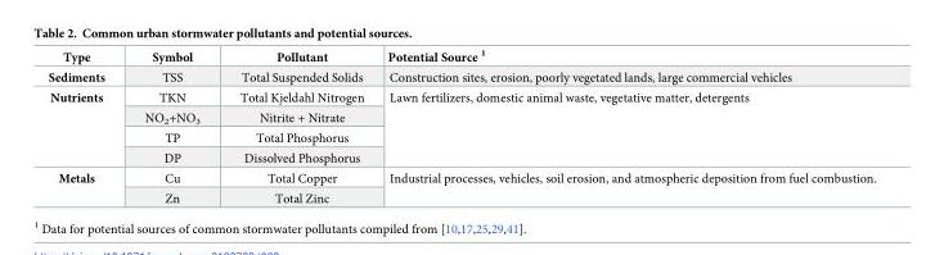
<table><thead><tr><td>Type</td><td>Symbol</td><td>Pollutant</td><td>Potential Source <sup>1</sup></td></tr></thead><tbody><tr><td>Sediments</td><td>TSS</td><td>Total Suspended Solids</td><td>Construction sites, erosion, poorly vegetated lands, large commercial vehicles</td></tr><tr><td rowspan="4">Nutrients</td><td>TKN</td><td>Total Kjeldahl Nitrogen</td><td rowspan="4">Lawn fertilizers, domestic animal waste, vegetative matter, detergents</td></tr><tr><td>NO<sub>2</sub>+NO<sub>3</sub></td><td>Nitrite + Nitrate</td></tr><tr><td>TP</td><td>Total Phosphorus</td></tr><tr><td>DP</td><td>Dissolved Phosphorus</td></tr><tr><td rowspan="2">Metals</td><td>Cu</td><td>Total Copper</td><td rowspan="2">Industrial processes, vehicles, soil erosion, and atmospheric deposition from fuel combustion.</td></tr><tr><td>Zn</td><td>Total Zinc</td></tr></tbody></table>